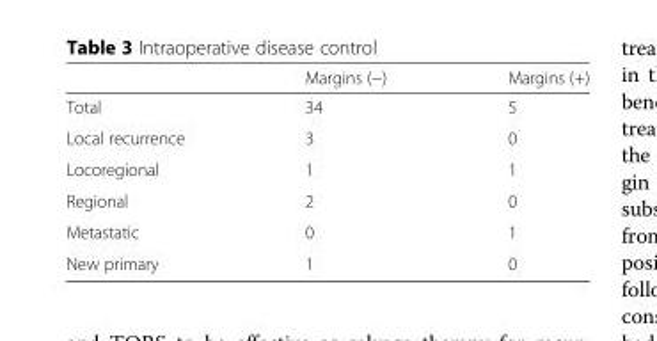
<table><thead><tr><td></td><td>Margins (−)</td><td>Margins (+)</td></tr></thead><tbody><tr><td>Total</td><td>34</td><td>5</td></tr><tr><td>Local recurrence</td><td>3</td><td>0</td></tr><tr><td>Locoregional</td><td>1</td><td>1</td></tr><tr><td>Regional</td><td>2</td><td>0</td></tr><tr><td>Metastatic</td><td>0</td><td>1</td></tr><tr><td>New primary</td><td>1</td><td>0</td></tr></tbody></table>